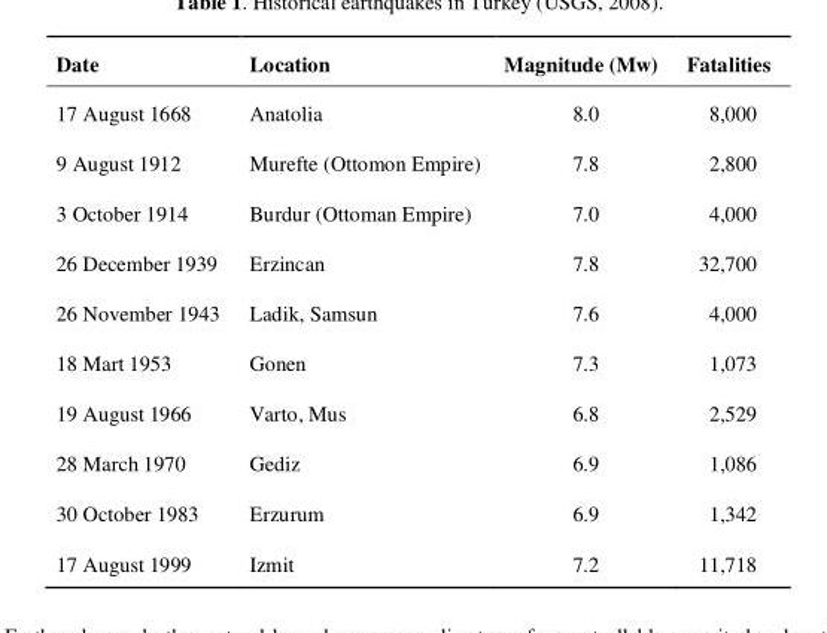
<table><thead><tr><td>Date</td><td>Location</td><td>Magnitude (Mw)</td><td>Fatalities</td></tr></thead><tbody><tr><td>17 August 1668</td><td>Anatolia</td><td>8.0</td><td>8,000</td></tr><tr><td>9 August 1912</td><td>Murefte (Ottomon Empire)</td><td>7.8</td><td>2,800</td></tr><tr><td>3 October 1914</td><td>Burdur (Ottoman Empire)</td><td>7.0</td><td>4,000</td></tr><tr><td>26 December 1939</td><td>Erzincan</td><td>7.8</td><td>32,700</td></tr><tr><td>26 November 1943</td><td>Ladik, Samsun</td><td>7.6</td><td>4,000</td></tr><tr><td>18 Mart 1953</td><td>Gonen</td><td>7.3</td><td>1,073</td></tr><tr><td>19 August 1966</td><td>Varto, Mus</td><td>6.8</td><td>2,529</td></tr><tr><td>28 March 1970</td><td>Gediz</td><td>6.9</td><td>1,086</td></tr><tr><td>30 October 1983</td><td>Erzurum</td><td>6.9</td><td>1,342</td></tr><tr><td>17 August 1999</td><td>Izmit</td><td>7.2</td><td>11,718</td></tr></tbody></table>